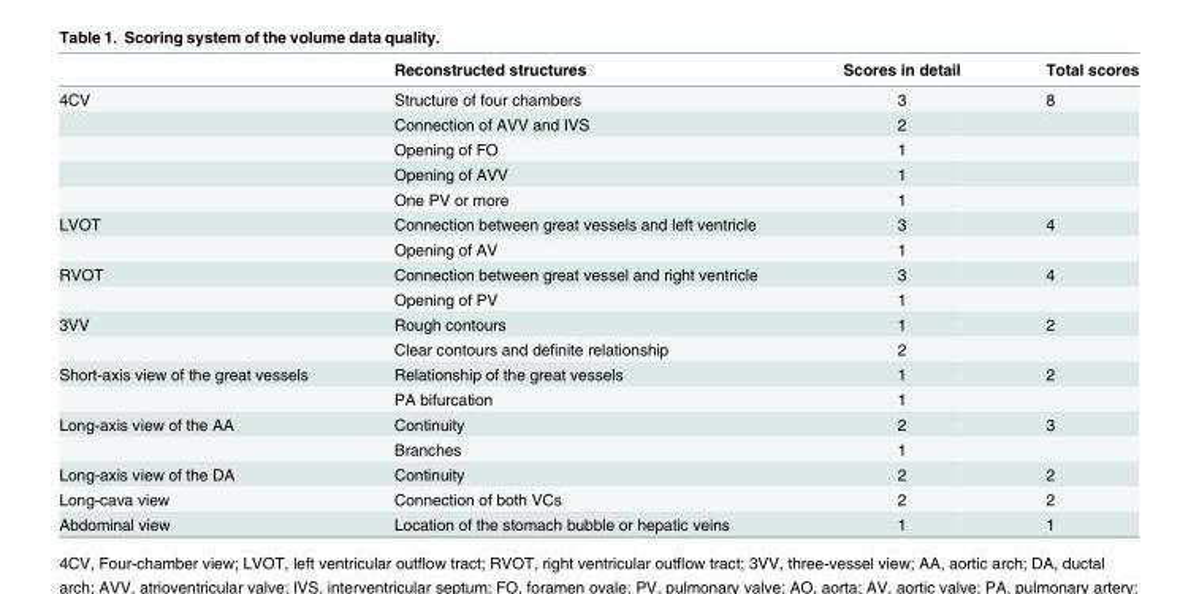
<table><thead><tr><td></td><td>Reconstructed structures</td><td>Scores in detail</td><td>Total scores</td></tr></thead><tbody><tr><td rowspan="5">4CV</td><td>Structure of four chambers</td><td>3</td><td>8</td></tr><tr><td>Connection of AVV and IVS</td><td>2</td><td></td></tr><tr><td>Opening of FO</td><td>1</td><td></td></tr><tr><td>Opening of AVV</td><td>1</td><td></td></tr><tr><td>One PV or more</td><td>1</td><td></td></tr><tr><td rowspan="2">LVOT</td><td>Connection between great vessels and left ventricle</td><td>3</td><td>4</td></tr><tr><td>Opening of AV</td><td>1</td><td></td></tr><tr><td rowspan="2">RVOT</td><td>Connection between great vessel and right ventricle</td><td>3</td><td>4</td></tr><tr><td>Opening of PV</td><td>1</td><td></td></tr><tr><td rowspan="2">3VV</td><td>Rough contours</td><td>1</td><td>2</td></tr><tr><td>Clear contours and definite relationship</td><td>2</td><td></td></tr><tr><td rowspan="2">Short-axis view of the great vessels</td><td>Relationship of the great vessels</td><td>1</td><td>2</td></tr><tr><td>PA bifurcation</td><td>1</td><td></td></tr><tr><td rowspan="2">Long-axis view of the AA</td><td>Continuity</td><td>2</td><td>3</td></tr><tr><td>Branches</td><td>1</td><td></td></tr><tr><td>Long-axis view of the DA</td><td>Continuity</td><td>2</td><td>2</td></tr><tr><td>Long-cava view</td><td>Connection of both VCs</td><td>2</td><td>2</td></tr><tr><td>Abdominal view</td><td>Location of the stomach bubble or hepatic veins</td><td>1</td><td>1</td></tr></tbody></table>